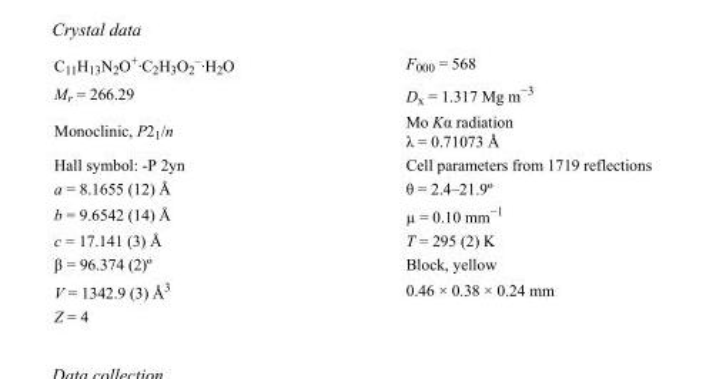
<table><tbody><tr><td>C<sub>11</sub>H<sub>13</sub>N<sub>2</sub>O<sup>+</sup>·C<sub>2</sub>H<sub>3</sub>O<sub>2</sub> <sup>–</sup>·H<sub>2</sub>O</td><td>F000 = 568</td></tr><tr><td>M<sub>r</sub> = 266.29</td><td>D<sub>x</sub> = 1.317 Mg m<sup>−3</sup></td></tr><tr><td>Monoclinic, P2<sub>1</sub>/n</td><td>Mo Kα radiation λ = 0.71073 Å</td></tr><tr><td>Hall symbol: -P 2yn</td><td>Cell parameters from 1719 reflections</td></tr><tr><td>a = 8.1655 (12) Å</td><td>θ = 2.4–21.9º</td></tr><tr><td>b = 9.6542 (14) Å</td><td>µ = 0.10 mm<sup>−1</sup></td></tr><tr><td>c = 17.141 (3) Å</td><td>T = 295 (2) K</td></tr><tr><td>β = 96.374 (2)º</td><td>Block, yellow</td></tr><tr><td>V = 1342.9 (3) Å<sup>3</sup></td><td>0.46 × 0.38 × 0.24 mm</td></tr><tr><td>Z = 4</td><td></td></tr></tbody></table>